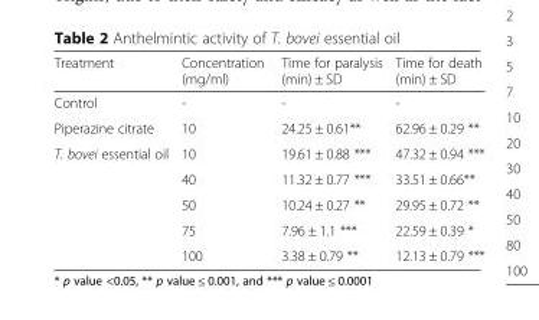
<table><thead><tr><td>Treatment</td><td>Concentration (mg/ml)</td><td>Time for paralysis (min) ± SD</td><td>Time for death (min) ± SD</td></tr></thead><tbody><tr><td>Control</td><td>-</td><td>-</td><td>-</td></tr><tr><td>Piperazine citrate</td><td>10</td><td>24.25 ± 0.61**</td><td>62.96 ± 0.29 **</td></tr><tr><td rowspan="5">T. bovei essential oil</td><td>10</td><td>19.61 ± 0.88 ***</td><td>47.32 ± 0.94 ***</td></tr><tr><td>40</td><td>11.32 ± 0.77 ***</td><td>33.51 ± 0.66**</td></tr><tr><td>50</td><td>10.24 ± 0.27 **</td><td>29.95 ± 0.72 **</td></tr><tr><td>75</td><td>7.96 ± 1.1 ***</td><td>22.59 ± 0.39 *</td></tr><tr><td>100</td><td>3.38 ± 0.79 **</td><td>12.13 ± 0.79 ***</td></tr></tbody></table>